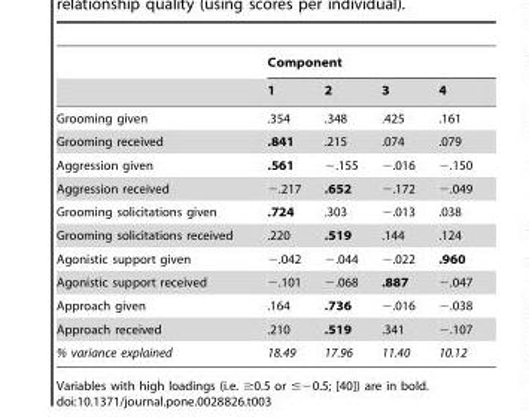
<table><thead><tr><td rowspan="2"></td><td colspan="4">Component</td></tr><tr><td>1</td><td>2</td><td>3</td><td>4</td></tr></thead><tbody><tr><td>Grooming given</td><td>.354</td><td>.348</td><td>.425</td><td>.161</td></tr><tr><td>Grooming received</td><td>.841</td><td>.215</td><td>.074</td><td>.079</td></tr><tr><td>Aggression given</td><td>.561</td><td>−.155</td><td>−.016</td><td>−.150</td></tr><tr><td>Aggression received</td><td>−.217</td><td>.652</td><td>−.172</td><td>−.049</td></tr><tr><td>Grooming solicitations given</td><td>.724</td><td>.303</td><td>−.013</td><td>.038</td></tr><tr><td>Grooming solicitations received</td><td>.220</td><td>.519</td><td>.144</td><td>.124</td></tr><tr><td>Agonistic support given</td><td>−.042</td><td>−.044</td><td>−.022</td><td>.960</td></tr><tr><td>Agonistic support received</td><td>−.101</td><td>−.068</td><td>.887</td><td>−.047</td></tr><tr><td>Approach given</td><td>.164</td><td>.736</td><td>−.016</td><td>−.038</td></tr><tr><td>Approach received</td><td>.210</td><td>.519</td><td>.341</td><td>−.107</td></tr><tr><td>% variance explained</td><td>18.49</td><td>17.96</td><td>11.40</td><td>10.12</td></tr></tbody></table>